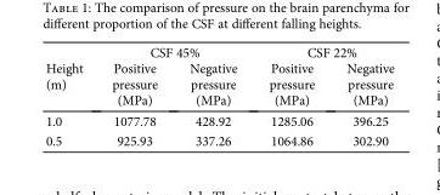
<table><thead><tr><td rowspan="2">Height (m)</td><td colspan="2">CSF 45%</td><td colspan="2">CSF 22%</td></tr><tr><td>Positive pressure (MPa)</td><td>Negative pressure (MPa)</td><td>Positive pressure (MPa)</td><td>Negative pressure (MPa)</td></tr></thead><tbody><tr><td>1.0</td><td>1077.78</td><td>428.92</td><td>1285.06</td><td>396.25</td></tr><tr><td>0.5</td><td>925.93</td><td>337.26</td><td>1064.86</td><td>302.90</td></tr></tbody></table>